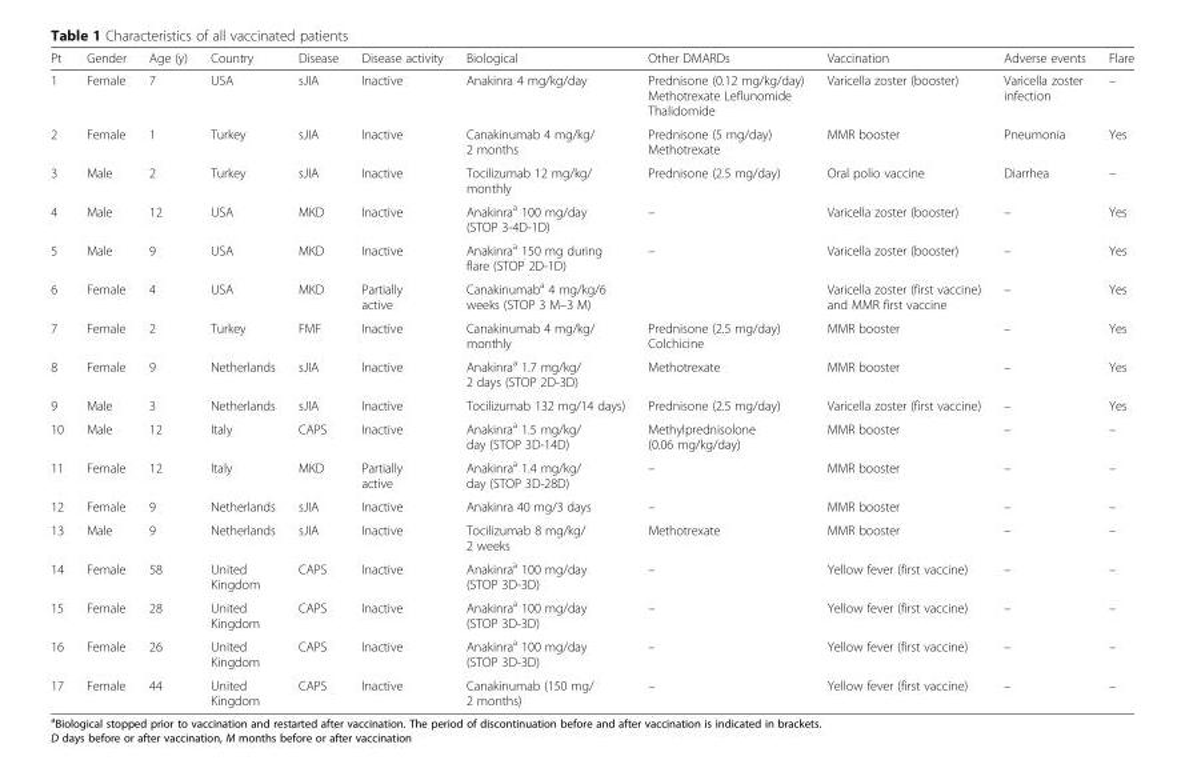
<table><thead><tr><td>Pt</td><td>Gender</td><td>Age (y)</td><td>Country</td><td>Disease</td><td>Disease activity</td><td>Biological</td><td>Other DMARDs</td><td>Vaccination</td><td>Adverse events</td><td>Flare</td></tr></thead><tbody><tr><td>1</td><td>Female</td><td>7</td><td>USA</td><td>sJIA</td><td>Inactive</td><td>Anakinra 4 mg/kg/day</td><td>Prednisone (0.12 mg/kg/day) Methotrexate Leflunomide Thalidomide</td><td>Varicella zoster (booster)</td><td>Varicella zoster infection</td><td>–</td></tr><tr><td>2</td><td>Female</td><td>1</td><td>Turkey</td><td>sJIA</td><td>Inactive</td><td>Canakinumab 4 mg/kg/ 2 months</td><td>Prednisone (5 mg/day) Methotrexate</td><td>MMR booster</td><td>Pneumonia</td><td>Yes</td></tr><tr><td>3</td><td>Male</td><td>2</td><td>Turkey</td><td>sJIA</td><td>Inactive</td><td>Tocilizumab 12 mg/kg/ monthly</td><td>Prednisone (2.5 mg/day)</td><td>Oral polio vaccine</td><td>Diarrhea</td><td>–</td></tr><tr><td>4</td><td>Male</td><td>12</td><td>USA</td><td>MKD</td><td>Inactive</td><td>Anakinra<sup>a</sup> 100 mg/day (STOP 3-4D-1D)</td><td>–</td><td>Varicella zoster (booster)</td><td>–</td><td>Yes</td></tr><tr><td>5</td><td>Male</td><td>9</td><td>USA</td><td>MKD</td><td>Inactive</td><td>Anakinra<sup>a</sup> 150 mg during flare (STOP 2D-1D)</td><td>–</td><td>Varicella zoster (booster)</td><td>–</td><td>Yes</td></tr><tr><td>6</td><td>Female</td><td>4</td><td>USA</td><td>MKD</td><td>Partially active</td><td>Canakinumab<sup>a</sup> 4 mg/kg/6 weeks (STOP 3 M–3 M)</td><td></td><td>Varicella zoster (first vaccine) and MMR first vaccine</td><td>–</td><td>Yes</td></tr><tr><td>7</td><td>Female</td><td>2</td><td>Turkey</td><td>FMF</td><td>Inactive</td><td>Canakinumab 4 mg/kg/ monthly</td><td>Prednisone (2.5 mg/day) Colchicine</td><td>MMR booster</td><td>–</td><td>Yes</td></tr><tr><td>8</td><td>Female</td><td>9</td><td>Netherlands</td><td>sJIA</td><td>Inactive</td><td>Anakinra<sup>a</sup> 1.7 mg/kg/ 2 days (STOP 2D-3D)</td><td>Methotrexate</td><td>MMR booster</td><td>–</td><td>Yes</td></tr><tr><td>9</td><td>Male</td><td>3</td><td>Netherlands</td><td>sJIA</td><td>Inactive</td><td>Tocilizumab 132 mg/14 days)</td><td>Prednisone (2.5 mg/day)</td><td>Varicella zoster (first vaccine)</td><td>–</td><td>Yes</td></tr><tr><td>10</td><td>Male</td><td>12</td><td>Italy</td><td>CAPS</td><td>Inactive</td><td>Anakinra<sup>a</sup> 1.5 mg/kg/ day (STOP 3D-14D)</td><td>Methylprednisolone (0.06 mg/kg/day)</td><td>MMR booster</td><td>–</td><td>–</td></tr><tr><td>11</td><td>Female</td><td>12</td><td>Italy</td><td>MKD</td><td>Partially active</td><td>Anakinra<sup>a</sup> 1.4 mg/kg/ day (STOP 3D-28D)</td><td>–</td><td>MMR booster</td><td>–</td><td>–</td></tr><tr><td>12</td><td>Female</td><td>9</td><td>Netherlands</td><td>sJIA</td><td>Inactive</td><td>Anakinra 40 mg/3 days</td><td>–</td><td>MMR booster</td><td>–</td><td>–</td></tr><tr><td>13</td><td>Male</td><td>9</td><td>Netherlands</td><td>sJIA</td><td>Inactive</td><td>Tocilizumab 8 mg/kg/ 2 weeks</td><td>Methotrexate</td><td>MMR booster</td><td>–</td><td>–</td></tr><tr><td>14</td><td>Female</td><td>58</td><td>United Kingdom</td><td>CAPS</td><td>Inactive</td><td>Anakinra<sup>a</sup> 100 mg/day (STOP 3D-3D)</td><td>–</td><td>Yellow fever (first vaccine)</td><td>–</td><td>–</td></tr><tr><td>15</td><td>Female</td><td>28</td><td>United Kingdom</td><td>CAPS</td><td>Inactive</td><td>Anakinra<sup>a</sup> 100 mg/day (STOP 3D-3D)</td><td>–</td><td>Yellow fever (first vaccine)</td><td>–</td><td>–</td></tr><tr><td>16</td><td>Female</td><td>26</td><td>United Kingdom</td><td>CAPS</td><td>Inactive</td><td>Anakinra<sup>a</sup> 100 mg/day (STOP 3D-3D)</td><td>–</td><td>Yellow fever (first vaccine)</td><td>–</td><td>–</td></tr><tr><td>17</td><td>Female</td><td>44</td><td>United Kingdom</td><td>CAPS</td><td>Inactive</td><td>Canakinumab (150 mg/ 2 months)</td><td>–</td><td>Yellow fever (first vaccine)</td><td>–</td><td>–</td></tr></tbody></table>